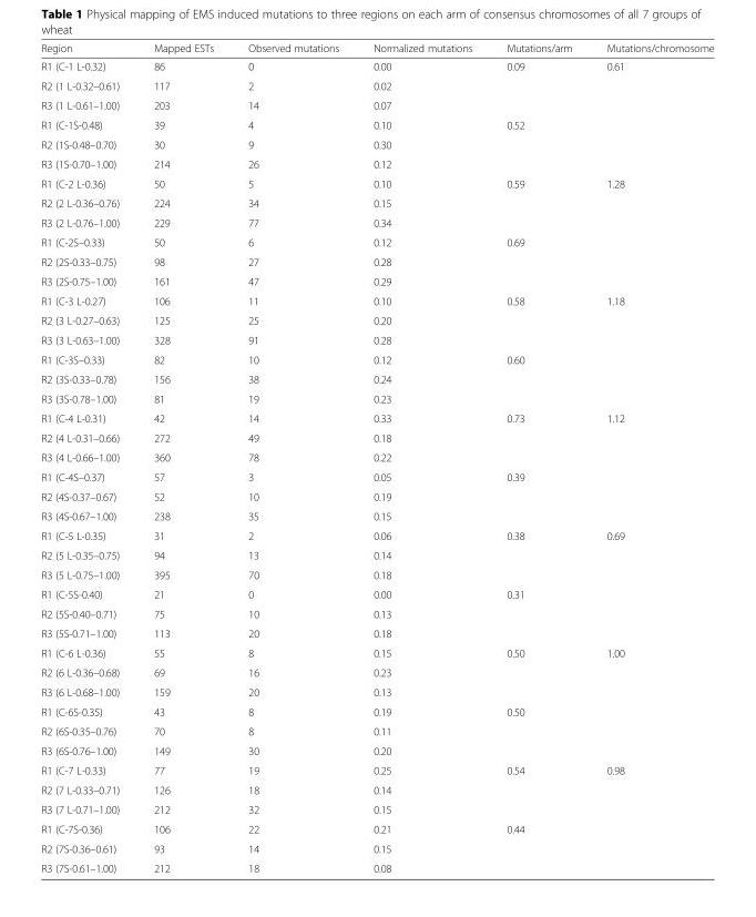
<table><thead><tr><td>Region</td><td>Mapped ESTs</td><td>Observed mutations</td><td>Normalized mutations</td><td>Mutations/arm</td><td>Mutations/chromosome</td></tr></thead><tbody><tr><td>R1 (C-1 L-0.32)</td><td>86</td><td>0</td><td>0.00</td><td>0.09</td><td>0.61</td></tr><tr><td>R2 (1 L-0.32–0.61)</td><td>117</td><td>2</td><td>0.02</td><td></td><td></td></tr><tr><td>R3 (1 L-0.61–1.00)</td><td>203</td><td>14</td><td>0.07</td><td></td><td></td></tr><tr><td>R1 (C-1S-0.48)</td><td>39</td><td>4</td><td>0.10</td><td>0.52</td><td></td></tr><tr><td>R2 (1S-0.48–0.70)</td><td>30</td><td>9</td><td>0.30</td><td></td><td></td></tr><tr><td>R3 (1S-0.70–1.00)</td><td>214</td><td>26</td><td>0.12</td><td></td><td></td></tr><tr><td>R1 (C-2 L-0.36)</td><td>50</td><td>5</td><td>0.10</td><td>0.59</td><td>1.28</td></tr><tr><td>R2 (2 L-0.36–0.76)</td><td>224</td><td>34</td><td>0.15</td><td></td><td></td></tr><tr><td>R3 (2 L-0.76–1.00)</td><td>229</td><td>77</td><td>0.34</td><td></td><td></td></tr><tr><td>R1 (C-2S–0.33)</td><td>50</td><td>6</td><td>0.12</td><td>0.69</td><td></td></tr><tr><td>R2 (2S-0.33–0.75)</td><td>98</td><td>27</td><td>0.28</td><td></td><td></td></tr><tr><td>R3 (2S-0.75–1.00)</td><td>161</td><td>47</td><td>0.29</td><td></td><td></td></tr><tr><td>R1 (C-3 L-0.27)</td><td>106</td><td>11</td><td>0.10</td><td>0.58</td><td>1.18</td></tr><tr><td>R2 (3 L-0.27–0.63)</td><td>125</td><td>25</td><td>0.20</td><td></td><td></td></tr><tr><td>R3 (3 L-0.63–1.00)</td><td>328</td><td>91</td><td>0.28</td><td></td><td></td></tr><tr><td>R1 (C-3S–0.33)</td><td>82</td><td>10</td><td>0.12</td><td>0.60</td><td></td></tr><tr><td>R2 (3S-0.33–0.78)</td><td>156</td><td>38</td><td>0.24</td><td></td><td></td></tr><tr><td>R3 (3S-0.78–1.00)</td><td>81</td><td>19</td><td>0.23</td><td></td><td></td></tr><tr><td>R1 (C-4 L-0.31)</td><td>42</td><td>14</td><td>0.33</td><td>0.73</td><td>1.12</td></tr><tr><td>R2 (4 L-0.31–0.66)</td><td>272</td><td>49</td><td>0.18</td><td></td><td></td></tr><tr><td>R3 (4 L-0.66–1.00)</td><td>360</td><td>78</td><td>0.22</td><td></td><td></td></tr><tr><td>R1 (C-4S–0.37)</td><td>57</td><td>3</td><td>0.05</td><td>0.39</td><td></td></tr><tr><td>R2 (4S-0.37–0.67)</td><td>52</td><td>10</td><td>0.19</td><td></td><td></td></tr><tr><td>R3 (4S-0.67–1.00)</td><td>238</td><td>35</td><td>0.15</td><td></td><td></td></tr><tr><td>R1 (C-5 L-0.35)</td><td>31</td><td>2</td><td>0.06</td><td>0.38</td><td>0.69</td></tr><tr><td>R2 (5 L-0.35–0.75)</td><td>94</td><td>13</td><td>0.14</td><td></td><td></td></tr><tr><td>R3 (5 L-0.75–1.00)</td><td>395</td><td>70</td><td>0.18</td><td></td><td></td></tr><tr><td>R1 (C-5S-0.40)</td><td>21</td><td>0</td><td>0.00</td><td>0.31</td><td></td></tr><tr><td>R2 (5S-0.40–0.71)</td><td>75</td><td>10</td><td>0.13</td><td></td><td></td></tr><tr><td>R3 (5S-0.71–1.00)</td><td>113</td><td>20</td><td>0.18</td><td></td><td></td></tr><tr><td>R1 (C-6 L-0.36)</td><td>55</td><td>8</td><td>0.15</td><td>0.50</td><td>1.00</td></tr><tr><td>R2 (6 L-0.36–0.68)</td><td>69</td><td>16</td><td>0.23</td><td></td><td></td></tr><tr><td>R3 (6 L-0.68–1.00)</td><td>159</td><td>20</td><td>0.13</td><td></td><td></td></tr><tr><td>R1 (C-6S-0.35)</td><td>43</td><td>8</td><td>0.19</td><td>0.50</td><td></td></tr><tr><td>R2 (6S-0.35–0.76)</td><td>70</td><td>8</td><td>0.11</td><td></td><td></td></tr><tr><td>R3 (6S-0.76–1.00)</td><td>149</td><td>30</td><td>0.20</td><td></td><td></td></tr><tr><td>R1 (C-7 L-0.33)</td><td>77</td><td>19</td><td>0.25</td><td>0.54</td><td>0.98</td></tr><tr><td>R2 (7 L-0.33–0.71)</td><td>126</td><td>18</td><td>0.14</td><td></td><td></td></tr><tr><td>R3 (7 L-0.71–1.00)</td><td>212</td><td>32</td><td>0.15</td><td></td><td></td></tr><tr><td>R1 (C-7S-0.36)</td><td>106</td><td>22</td><td>0.21</td><td>0.44</td><td></td></tr><tr><td>R2 (7S-0.36–0.61)</td><td>93</td><td>14</td><td>0.15</td><td></td><td></td></tr><tr><td>R3 (7S-0.61–1.00)</td><td>212</td><td>18</td><td>0.08</td><td></td><td></td></tr></tbody></table>